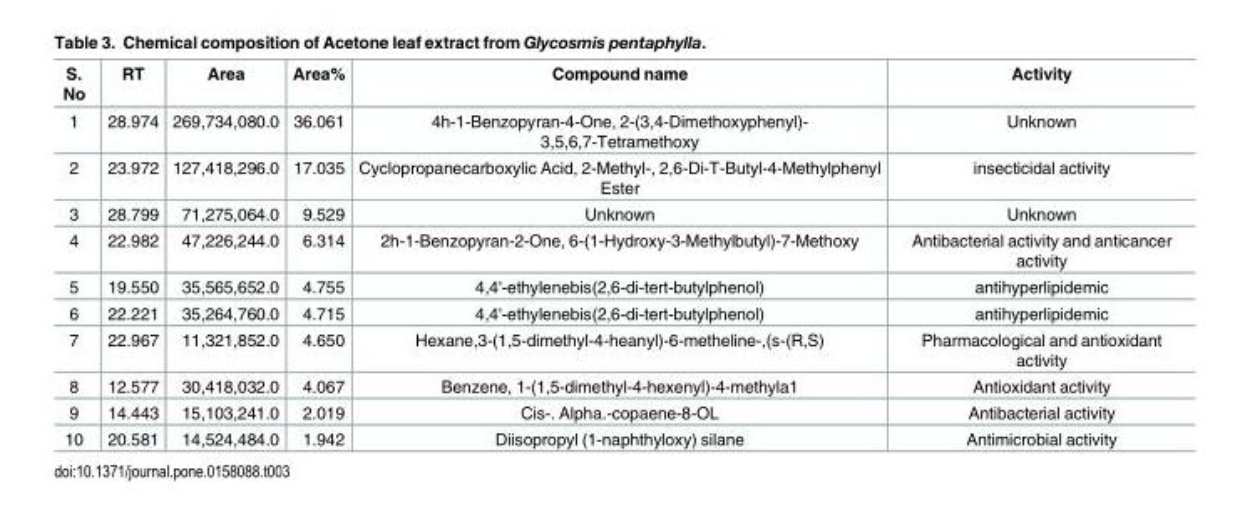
<table><thead><tr><td>S. No</td><td>RT</td><td>Area</td><td>Area%</td><td>Compound name</td><td>Activity</td></tr></thead><tbody><tr><td>1</td><td>28.974</td><td>269,734,080.0</td><td>36.061</td><td>4h-1-Benzopyran-4-One, 2-(3,4-Dimethoxyphenyl)- 3,5,6,7-Tetramethoxy</td><td>Unknown</td></tr><tr><td>2</td><td>23.972</td><td>127,418,296.0</td><td>17.035</td><td>Cyclopropanecarboxylic Acid, 2-Methyl-, 2,6-Di-T-Butyl-4-Methylphenyl Ester</td><td>insecticidal activity</td></tr><tr><td>3</td><td>28.799</td><td>71,275,064.0</td><td>9.529</td><td>Unknown</td><td>Unknown</td></tr><tr><td>4</td><td>22.982</td><td>47,226,244.0</td><td>6.314</td><td>2h-1-Benzopyran-2-One, 6-(1-Hydroxy-3-Methylbutyl)-7-Methoxy</td><td>Antibacterial activity and anticancer activity</td></tr><tr><td>5</td><td>19.550</td><td>35,565,652.0</td><td>4.755</td><td>4,4&#x27;-ethylenebis(2,6-di-tert-butylphenol)</td><td>antihyperlipidemic</td></tr><tr><td>6</td><td>22.221</td><td>35,264,760.0</td><td>4.715</td><td>4,4&#x27;-ethylenebis(2,6-di-tert-butylphenol)</td><td>antihyperlipidemic</td></tr><tr><td>7</td><td>22.967</td><td>11,321,852.0</td><td>4.650</td><td>Hexane,3-(1,5-dimethyl-4-heanyl)-6-metheline-,(s-(R,S)</td><td>Pharmacological and antioxidant activity</td></tr><tr><td>8</td><td>12.577</td><td>30,418,032.0</td><td>4.067</td><td>Benzene, 1-(1,5-dimethyl-4-hexenyl)-4-methyla1</td><td>Antioxidant activity</td></tr><tr><td>9</td><td>14.443</td><td>15,103,241.0</td><td>2.019</td><td>Cis-. Alpha.-copaene-8-OL</td><td>Antibacterial activity</td></tr><tr><td>10</td><td>20.581</td><td>14,524,484.0</td><td>1.942</td><td>Diisopropyl (1-naphthyloxy) silane</td><td>Antimicrobial activity</td></tr></tbody></table>